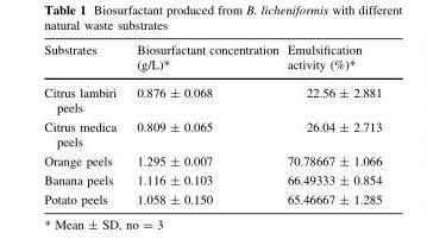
<table><thead><tr><td>Substrates</td><td>Biosurfactant concentration (g/L)*</td><td>Emulsification activity (%)*</td></tr></thead><tbody><tr><td>Citrus lambiri peels</td><td>0.876 ± 0.068</td><td>22.56 ± 2.881</td></tr><tr><td>Citrus medica peels</td><td>0.809 ± 0.065</td><td>26.04 ± 2.713</td></tr><tr><td>Orange peels</td><td>1.295 ± 0.007</td><td>70.78667 ± 1.066</td></tr><tr><td>Banana peels</td><td>1.116 ± 0.103</td><td>66.49333 ± 0.854</td></tr><tr><td>Potato peels</td><td>1.058 ± 0.150</td><td>65.46667 ± 1.285</td></tr></tbody></table>